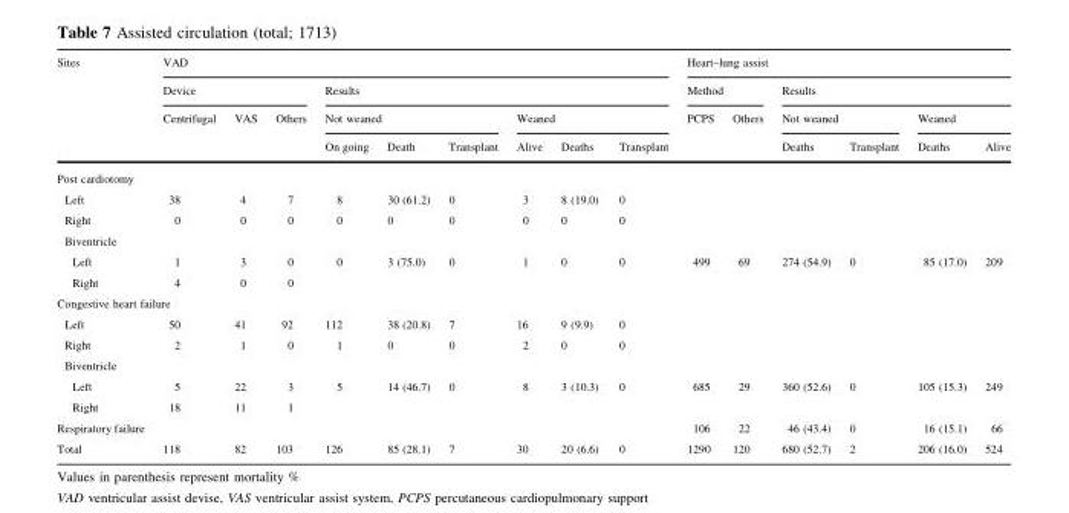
<table><thead><tr><td rowspan="4">Sites</td><td colspan="9">VAD</td><td colspan="6">Heart–lung assist</td></tr><tr><td colspan="3">Device</td><td colspan="6">Results</td><td colspan="2">Method</td><td colspan="4">Results</td></tr><tr><td rowspan="2">Centrifugal</td><td rowspan="2">VAS</td><td rowspan="2">Others</td><td colspan="3">Not weaned</td><td colspan="3">Weaned</td><td rowspan="2">PCPS</td><td rowspan="2">Others</td><td colspan="2">Not weaned</td><td colspan="2">Weaned</td></tr><tr><td>On going</td><td>Death</td><td>Transplant</td><td>Alive</td><td>Deaths</td><td>Transplant</td><td>Deaths</td><td>Transplant</td><td>Deaths</td><td>Alive</td></tr></thead><tbody><tr><td colspan="16">Post cardiotomy</td></tr><tr><td>Left</td><td>38</td><td>4</td><td>7</td><td>8</td><td>30 (61.2)</td><td>0</td><td>3</td><td>8 (19.0)</td><td>0</td><td></td><td></td><td></td><td></td><td></td><td></td></tr><tr><td>Right</td><td>0</td><td>0</td><td>0</td><td>0</td><td>0</td><td>0</td><td>0</td><td>0</td><td>0</td><td></td><td></td><td></td><td></td><td></td><td></td></tr><tr><td colspan="16">Biventricle</td></tr><tr><td>Left</td><td>1</td><td>3</td><td>0</td><td rowspan="2">0</td><td rowspan="2">3 (75.0)</td><td rowspan="2">0</td><td rowspan="2">1</td><td rowspan="2">0</td><td rowspan="2">0</td><td rowspan="2">499</td><td rowspan="2">69</td><td rowspan="2">274 (54.9)</td><td rowspan="2">0</td><td rowspan="2">85 (17.0)</td><td rowspan="2">209</td></tr><tr><td>Right</td><td>4</td><td>0</td><td>0</td></tr><tr><td colspan="16">Congestive heart failure</td></tr><tr><td>Left</td><td>50</td><td>41</td><td>92</td><td>112</td><td>38 (20.8)</td><td>7</td><td>16</td><td>9 (9.9)</td><td>0</td><td></td><td></td><td></td><td></td><td></td><td></td></tr><tr><td>Right</td><td>2</td><td>1</td><td>0</td><td>1</td><td>0</td><td>0</td><td>2</td><td>0</td><td>0</td><td></td><td></td><td></td><td></td><td></td><td></td></tr><tr><td colspan="16">Biventricle</td></tr><tr><td>Left</td><td>5</td><td>22</td><td>3</td><td rowspan="2">5</td><td rowspan="2">14 (46.7)</td><td rowspan="2">0</td><td rowspan="2">8</td><td rowspan="2">3 (10.3)</td><td rowspan="2">0</td><td rowspan="2">685</td><td rowspan="2">29</td><td rowspan="2">360 (52.6)</td><td rowspan="2">0</td><td rowspan="2">105 (15.3)</td><td rowspan="2">249</td></tr><tr><td>Right</td><td>18</td><td>11</td><td>1</td></tr><tr><td>Respiratory failure</td><td></td><td></td><td></td><td></td><td></td><td></td><td></td><td></td><td></td><td>106</td><td>22</td><td>46 (43.4)</td><td>0</td><td>16 (15.1)</td><td>66</td></tr><tr><td>Total</td><td>118</td><td>82</td><td>103</td><td>126</td><td>85 (28.1)</td><td>7</td><td>30</td><td>20 (6.6)</td><td>0</td><td>1290</td><td>120</td><td>680 (52.7)</td><td>2</td><td>206 (16.0)</td><td>524</td></tr></tbody></table>